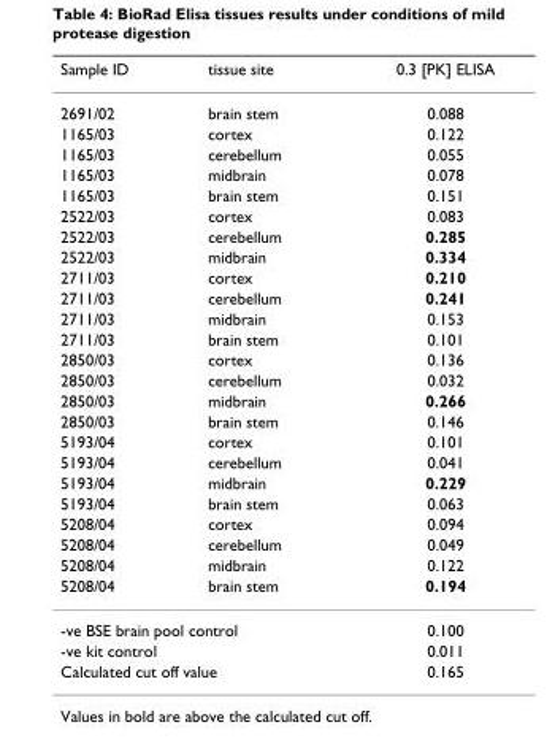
<table><thead><tr><td>Sample ID</td><td>tissue site</td><td>0.3 [PK] ELISA</td></tr></thead><tbody><tr><td>2691/02</td><td>brain stem</td><td>0.088</td></tr><tr><td>1165/03</td><td>cortex</td><td>0.122</td></tr><tr><td>1165/03</td><td>cerebellum</td><td>0.055</td></tr><tr><td>1165/03</td><td>midbrain</td><td>0.078</td></tr><tr><td>1165/03</td><td>brain stem</td><td>0.151</td></tr><tr><td>2522/03</td><td>cortex</td><td>0.083</td></tr><tr><td>2522/03</td><td>cerebellum</td><td>0.285</td></tr><tr><td>2522/03</td><td>midbrain</td><td>0.334</td></tr><tr><td>2711/03</td><td>cortex</td><td>0.210</td></tr><tr><td>2711/03</td><td>cerebellum</td><td>0.241</td></tr><tr><td>2711/03</td><td>midbrain</td><td>0.153</td></tr><tr><td>2711/03</td><td>brain stem</td><td>0.101</td></tr><tr><td>2850/03</td><td>cortex</td><td>0.136</td></tr><tr><td>2850/03</td><td>cerebellum</td><td>0.032</td></tr><tr><td>2850/03</td><td>midbrain</td><td>0.266</td></tr><tr><td>2850/03</td><td>brain stem</td><td>0.146</td></tr><tr><td>5193/04</td><td>cortex</td><td>0.101</td></tr><tr><td>5193/04</td><td>cerebellum</td><td>0.041</td></tr><tr><td>5193/04</td><td>midbrain</td><td>0.229</td></tr><tr><td>5193/04</td><td>brain stem</td><td>0.063</td></tr><tr><td>5208/04</td><td>cortex</td><td>0.094</td></tr><tr><td>5208/04</td><td>cerebellum</td><td>0.049</td></tr><tr><td>5208/04</td><td>midbrain</td><td>0.122</td></tr><tr><td>5208/04</td><td>brain stem</td><td>0.194</td></tr><tr><td colspan="2">-ve BSE brain pool control</td><td>0.100</td></tr><tr><td colspan="2">-ve kit control</td><td>0.011</td></tr><tr><td colspan="2">Calculated cut off value</td><td>0.165</td></tr></tbody></table>